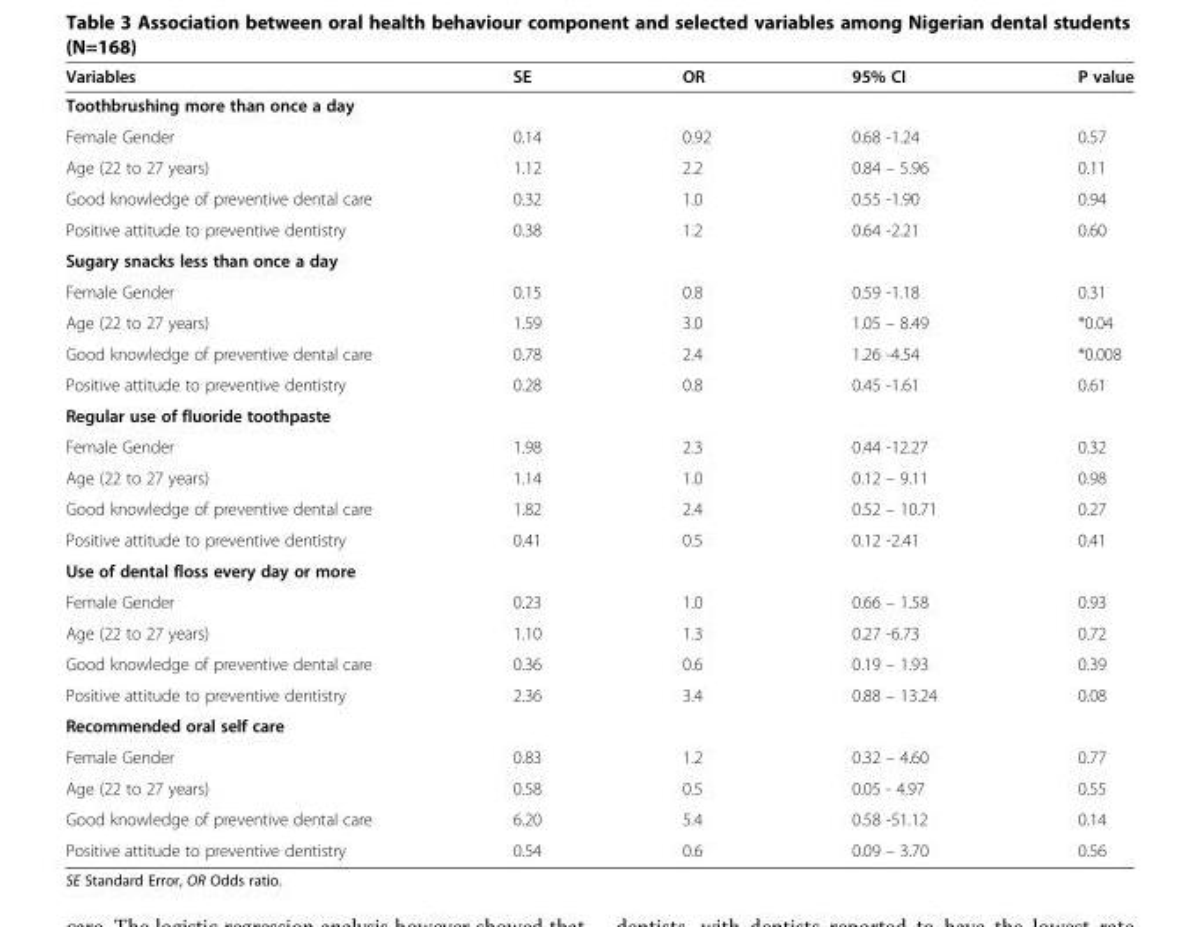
<table><thead><tr><td>Variables</td><td>SE</td><td>OR</td><td>95% CI</td><td>P value</td></tr></thead><tbody><tr><td colspan="5">Toothbrushing more than once a day</td></tr><tr><td>Female Gender</td><td>0.14</td><td>0.92</td><td>0.68 -1.24</td><td>0.57</td></tr><tr><td>Age (22 to 27 years)</td><td>1.12</td><td>2.2</td><td>0.84 – 5.96</td><td>0.11</td></tr><tr><td>Good knowledge of preventive dental care</td><td>0.32</td><td>1.0</td><td>0.55 -1.90</td><td>0.94</td></tr><tr><td>Positive attitude to preventive dentistry</td><td>0.38</td><td>1.2</td><td>0.64 -2.21</td><td>0.60</td></tr><tr><td colspan="5">Sugary snacks less than once a day</td></tr><tr><td>Female Gender</td><td>0.15</td><td>0.8</td><td>0.59 -1.18</td><td>0.31</td></tr><tr><td>Age (22 to 27 years)</td><td>1.59</td><td>3.0</td><td>1.05 – 8.49</td><td>*0.04</td></tr><tr><td>Good knowledge of preventive dental care</td><td>0.78</td><td>2.4</td><td>1.26 -4.54</td><td>*0.008</td></tr><tr><td>Positive attitude to preventive dentistry</td><td>0.28</td><td>0.8</td><td>0.45 -1.61</td><td>0.61</td></tr><tr><td colspan="5">Regular use of fluoride toothpaste</td></tr><tr><td>Female Gender</td><td>1.98</td><td>2.3</td><td>0.44 -12.27</td><td>0.32</td></tr><tr><td>Age (22 to 27 years)</td><td>1.14</td><td>1.0</td><td>0.12 – 9.11</td><td>0.98</td></tr><tr><td>Good knowledge of preventive dental care</td><td>1.82</td><td>2.4</td><td>0.52 – 10.71</td><td>0.27</td></tr><tr><td>Positive attitude to preventive dentistry</td><td>0.41</td><td>0.5</td><td>0.12 -2.41</td><td>0.41</td></tr><tr><td colspan="5">Use of dental floss every day or more</td></tr><tr><td>Female Gender</td><td>0.23</td><td>1.0</td><td>0.66 – 1.58</td><td>0.93</td></tr><tr><td>Age (22 to 27 years)</td><td>1.10</td><td>1.3</td><td>0.27 -6.73</td><td>0.72</td></tr><tr><td>Good knowledge of preventive dental care</td><td>0.36</td><td>0.6</td><td>0.19 – 1.93</td><td>0.39</td></tr><tr><td>Positive attitude to preventive dentistry</td><td>2.36</td><td>3.4</td><td>0.88 – 13.24</td><td>0.08</td></tr><tr><td colspan="5">Recommended oral self care</td></tr><tr><td>Female Gender</td><td>0.83</td><td>1.2</td><td>0.32 – 4.60</td><td>0.77</td></tr><tr><td>Age (22 to 27 years)</td><td>0.58</td><td>0.5</td><td>0.05 - 4.97</td><td>0.55</td></tr><tr><td>Good knowledge of preventive dental care</td><td>6.20</td><td>5.4</td><td>0.58 -51.12</td><td>0.14</td></tr><tr><td>Positive attitude to preventive dentistry</td><td>0.54</td><td>0.6</td><td>0.09 – 3.70</td><td>0.56</td></tr></tbody></table>